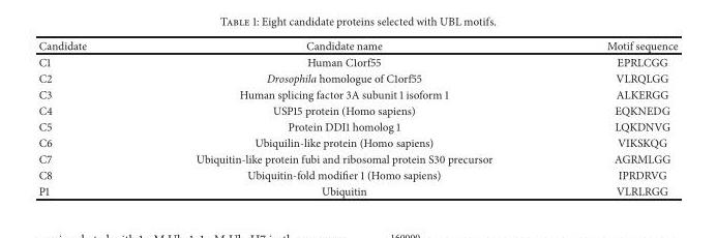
<table><thead><tr><td>Candidate</td><td>Candidate name</td><td>Motif sequence</td></tr></thead><tbody><tr><td>C1</td><td>Human C1orf55</td><td>EPRLCGG</td></tr><tr><td>C2</td><td>Drosophila homologue of C1orf55</td><td>VLRQLGG</td></tr><tr><td>C3</td><td>Human splicing factor 3A subunit 1 isoform 1</td><td>ALKERGG</td></tr><tr><td>C4</td><td>USP15 protein (Homo sapiens)</td><td>EQKNEDG</td></tr><tr><td>C5</td><td>Protein DDI1 homolog 1</td><td>LQKDNVG</td></tr><tr><td>C6</td><td>Ubiquilin-like protein (Homo sapiens)</td><td>VIKSKQG</td></tr><tr><td>C7</td><td>Ubiquitin-like protein fubi and ribosomal protein S30 precursor</td><td>AGRMLGG</td></tr><tr><td>C8</td><td>Ubiquitin-fold modifier 1 (Homo sapiens)</td><td>IPRDRVG</td></tr><tr><td>P1</td><td>Ubiquitin</td><td>VLRLRGG</td></tr></tbody></table>